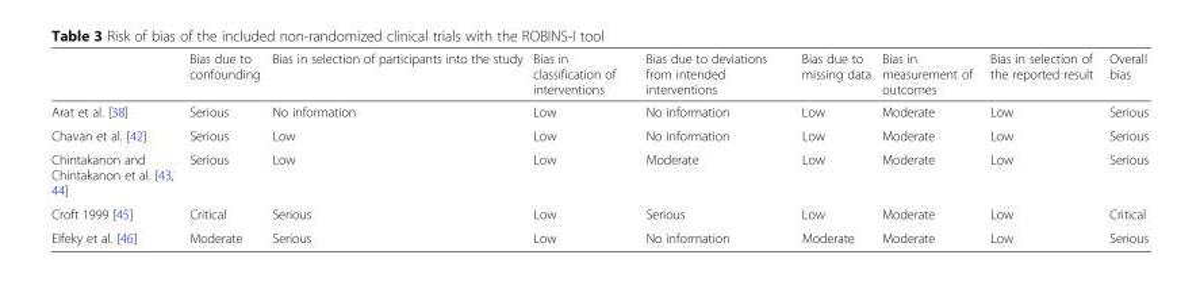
<table><thead><tr><td></td><td>Bias due to confounding</td><td>Bias in selection of participants into the study</td><td>Bias in classification of interventions</td><td>Bias due to deviations from intended interventions</td><td>Bias due to missing data</td><td>Bias in measurement of outcomes</td><td>Bias in selection of the reported result</td><td>Overall bias</td></tr></thead><tbody><tr><td>Arat et al. [38]</td><td>Serious</td><td>No information</td><td>Low</td><td>No information</td><td>Low</td><td>Moderate</td><td>Low</td><td>Serious</td></tr><tr><td>Chavan et al. [42]</td><td>Serious</td><td>Low</td><td>Low</td><td>No information</td><td>Low</td><td>Moderate</td><td>Low</td><td>Serious</td></tr><tr><td>Chintakanon and Chintakanon et al. [43, 44]</td><td>Serious</td><td>Low</td><td>Low</td><td>Moderate</td><td>Low</td><td>Moderate</td><td>Low</td><td>Serious</td></tr><tr><td>Croft 1999 [45]</td><td>Critical</td><td>Serious</td><td>Low</td><td>Serious</td><td>Low</td><td>Moderate</td><td>Low</td><td>Critical</td></tr><tr><td>Elfeky et al. [46]</td><td>Moderate</td><td>Serious</td><td>Low</td><td>No information</td><td>Moderate</td><td>Moderate</td><td>Low</td><td>Serious</td></tr></tbody></table>